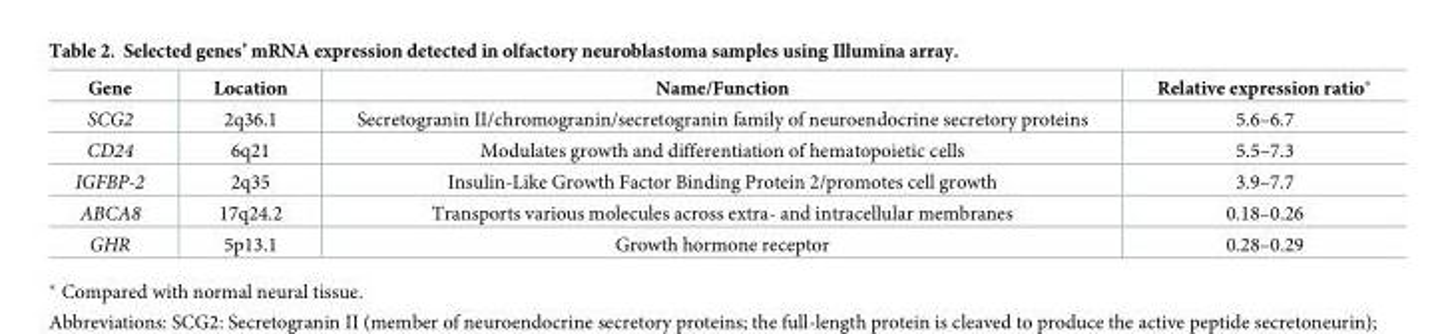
<table><thead><tr><td>Gene</td><td>Location</td><td>Name/Function</td><td>Relative expression ratio*</td></tr></thead><tbody><tr><td>SCG2</td><td>2q36.1</td><td>Secretogranin II/chromogranin/secretogranin family of neuroendocrine secretory proteins</td><td>5.6–6.7</td></tr><tr><td>CD24</td><td>6q21</td><td>Modulates growth and differentiation of hematopoietic cells</td><td>5.5–7.3</td></tr><tr><td>IGFBP-2</td><td>2q35</td><td>Insulin-Like Growth Factor Binding Protein 2/promotes cell growth</td><td>3.9–7.7</td></tr><tr><td>ABCA8</td><td>17q24.2</td><td>Transports various molecules across extra- and intracellular membranes</td><td>0.18–0.26</td></tr><tr><td>GHR</td><td>5p13.1</td><td>Growth hormone receptor</td><td>0.28–0.29</td></tr></tbody></table>